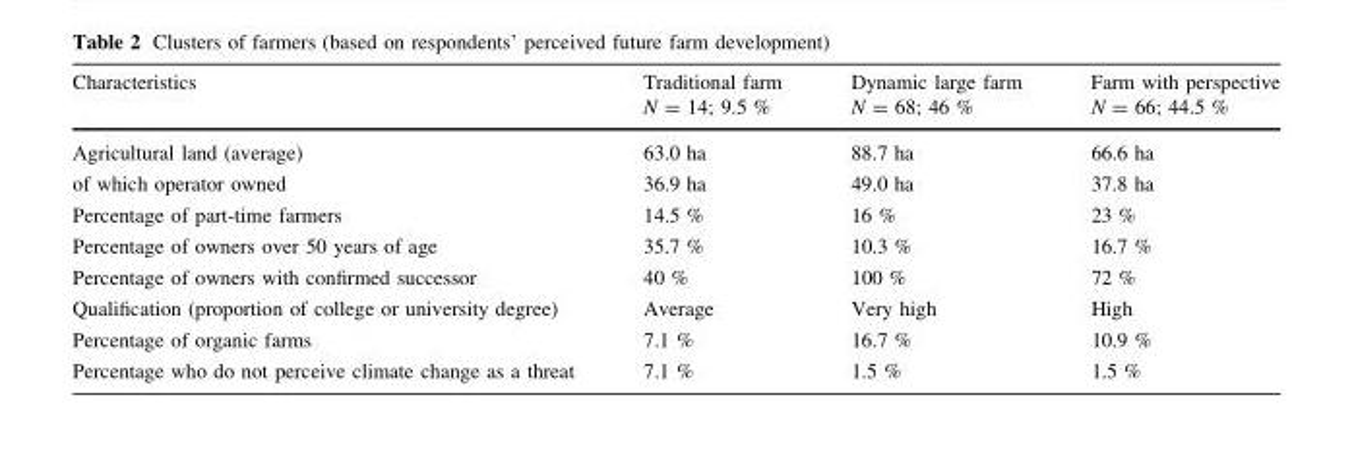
<table><thead><tr><td>Characteristics</td><td>Traditional farm N = 14; 9.5 %</td><td>Dynamic large farm N = 68; 46 %</td><td>Farm with perspective N = 66; 44.5 %</td></tr></thead><tbody><tr><td rowspan="2">Agricultural land (average) of which operator owned</td><td>63.0 ha</td><td>88.7 ha</td><td>66.6 ha</td></tr><tr><td>36.9 ha</td><td>49.0 ha</td><td>37.8 ha</td></tr><tr><td>Percentage of part-time farmers</td><td>14.5 %</td><td>16 %</td><td>23 %</td></tr><tr><td>Percentage of owners over 50 years of age</td><td>35.7 %</td><td>10.3 %</td><td>16.7 %</td></tr><tr><td>Percentage of owners with confirmed successor</td><td>40 %</td><td>100 %</td><td>72 %</td></tr><tr><td>Qualification (proportion of college or university degree)</td><td>Average</td><td>Very high</td><td>High</td></tr><tr><td>Percentage of organic farms</td><td>7.1 %</td><td>16.7 %</td><td>10.9 %</td></tr><tr><td>Percentage who do not perceive climate change as a threat</td><td>7.1 %</td><td>1.5 %</td><td>1.5 %</td></tr></tbody></table>